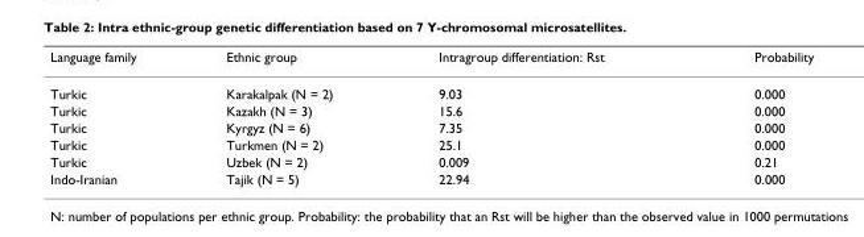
<table><thead><tr><td>Language family</td><td>Ethnic group</td><td>Intragroup differentiation: Rst</td><td>Probability</td></tr></thead><tbody><tr><td>Turkic</td><td>Karakalpak (N = 2)</td><td>9.03</td><td>0.000</td></tr><tr><td>Turkic</td><td>Kazakh (N = 3)</td><td>15.6</td><td>0.000</td></tr><tr><td>Turkic</td><td>Kyrgyz (N = 6)</td><td>7.35</td><td>0.000</td></tr><tr><td>Turkic</td><td>Turkmen (N = 2)</td><td>25.1</td><td>0.000</td></tr><tr><td>Turkic</td><td>Uzbek (N = 2)</td><td>0.009</td><td>0.21</td></tr><tr><td>Indo-Iranian</td><td>Tajik (N = 5)</td><td>22.94</td><td>0.000</td></tr></tbody></table>